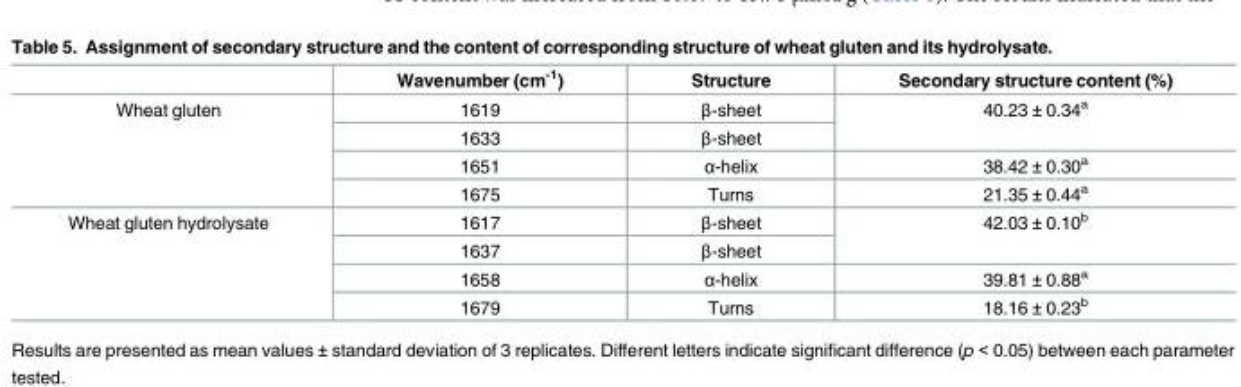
<table><thead><tr><td></td><td>Wavenumber (cm<sup>-1</sup>)</td><td>Structure</td><td>Secondary structure content (%)</td></tr></thead><tbody><tr><td rowspan="4">Wheat gluten</td><td>1619</td><td>β-sheet</td><td rowspan="2">40.23 ± 0.34<sup>a</sup></td></tr><tr><td>1633</td><td>β-sheet</td></tr><tr><td>1651</td><td>α-helix</td><td>38.42 ± 0.30<sup>a</sup></td></tr><tr><td>1675</td><td>Turns</td><td>21.35 ± 0.44<sup>a</sup></td></tr><tr><td rowspan="4">Wheat gluten hydrolysate</td><td>1617</td><td>β-sheet</td><td rowspan="2">42.03 ± 0.10<sup>b</sup></td></tr><tr><td>1637</td><td>β-sheet</td></tr><tr><td>1658</td><td>α-helix</td><td>39.81 ± 0.88<sup>a</sup></td></tr><tr><td>1679</td><td>Turns</td><td>18.16 ± 0.23<sup>b</sup></td></tr></tbody></table>